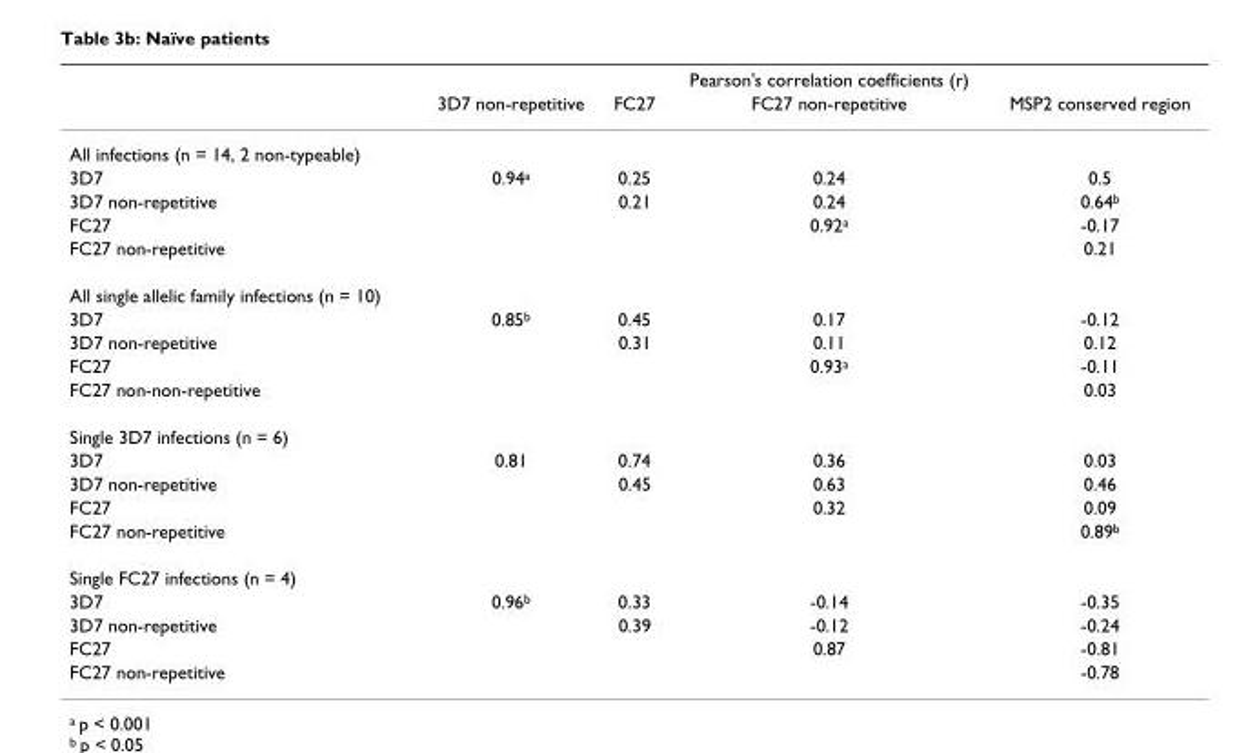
<table><thead><tr><td rowspan="2"></td><td rowspan="2">3D7 non-repetitive</td><td rowspan="2">FC27</td><td rowspan="2">Pearson&#x27;s correlation coefficients (r) FC27 non-repetitive</td><td rowspan="2">MSP2 conserved region</td></tr><tr></tr></thead><tbody><tr><td colspan="5">All infections (n = 14, 2 non-typeable)</td></tr><tr><td>3D7</td><td>0.94<sup>a</sup></td><td>0.25</td><td>0.24</td><td>0.5</td></tr><tr><td>3D7 non-repetitive</td><td></td><td>0.21</td><td>0.24</td><td>0.64<sup>b</sup></td></tr><tr><td>FC27</td><td></td><td></td><td>0.92<sup>a</sup></td><td>-0.17</td></tr><tr><td>FC27 non-repetitive</td><td></td><td></td><td></td><td>0.21</td></tr><tr><td colspan="5">All single allelic family infections (n = 10)</td></tr><tr><td>3D7</td><td>0.85<sup>b</sup></td><td>0.45</td><td>0.17</td><td>-0.12</td></tr><tr><td>3D7 non-repetitive</td><td></td><td>0.31</td><td>0.11</td><td>0.12</td></tr><tr><td>FC27</td><td></td><td></td><td>0.93<sup>a</sup></td><td>-0.11</td></tr><tr><td>FC27 non-non-repetitive</td><td></td><td></td><td></td><td>0.03</td></tr><tr><td colspan="5">Single 3D7 infections (n = 6)</td></tr><tr><td>3D7</td><td>0.81</td><td>0.74</td><td>0.36</td><td>0.03</td></tr><tr><td>3D7 non-repetitive</td><td></td><td>0.45</td><td>0.63</td><td>0.46</td></tr><tr><td>FC27</td><td></td><td></td><td>0.32</td><td>0.09</td></tr><tr><td>FC27 non-repetitive</td><td></td><td></td><td></td><td>0.89<sup>b</sup></td></tr><tr><td colspan="5">Single FC27 infections (n = 4)</td></tr><tr><td>3D7</td><td>0.96<sup>b</sup></td><td>0.33</td><td>-0.14</td><td>-0.35</td></tr><tr><td>3D7 non-repetitive</td><td></td><td>0.39</td><td>-0.12</td><td>-0.24</td></tr><tr><td>FC27</td><td></td><td></td><td>0.87</td><td>-0.81</td></tr><tr><td>FC27 non-repetitive</td><td></td><td></td><td></td><td>-0.78</td></tr></tbody></table>